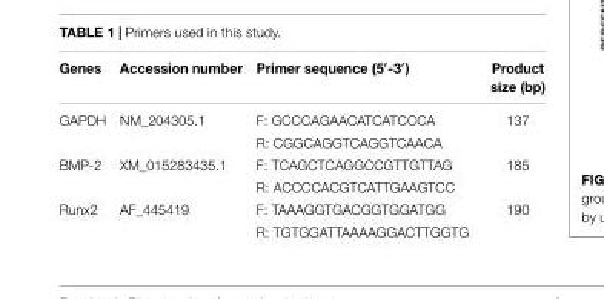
<table><thead><tr><td>Genes</td><td>Accession number</td><td>Primer sequence (5′-3′)</td><td>Product size (bp)</td></tr></thead><tbody><tr><td rowspan="2">GAPDH</td><td>NM_204305.1</td><td>F: GCCCAGAACATCATCCCA</td><td>137</td></tr><tr><td></td><td>R: CGGCAGGTCAGGTCAACA</td><td></td></tr><tr><td rowspan="2">BMP-2</td><td>XM_015283435.1</td><td>F: TCAGCTCAGGCCGTTGTTAG</td><td>185</td></tr><tr><td></td><td>R: ACCCCACGTCATTGAAGTCC</td><td></td></tr><tr><td rowspan="2">Runx2</td><td>AF_445419</td><td>F: TAAAGGTGACGGTGGATGG</td><td>190</td></tr><tr><td></td><td>R: TGTGGATTAAAAGGACTTGGTG</td><td></td></tr></tbody></table>